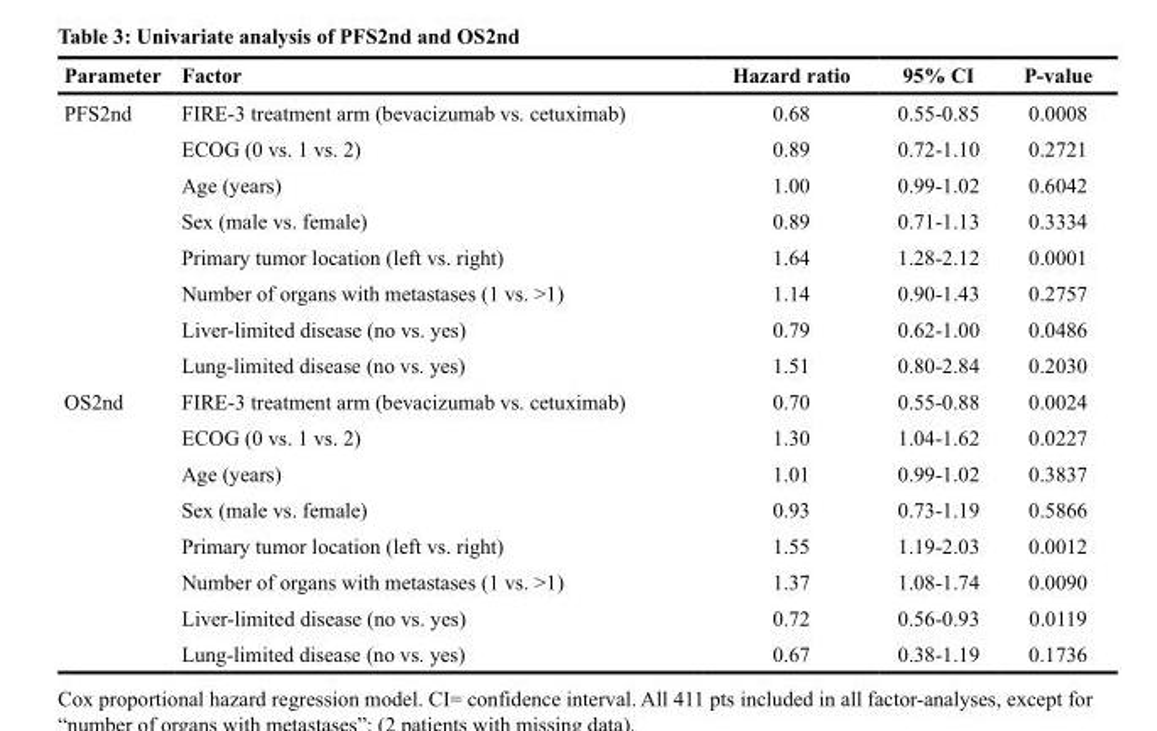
<table><thead><tr><td>Parameter</td><td>Factor</td><td>Hazard ratio</td><td>95% CI</td><td>P-value</td></tr></thead><tbody><tr><td rowspan="8">PFS2nd</td><td>FIRE-3 treatment arm (bevacizumab vs. cetuximab)</td><td>0.68</td><td>0.55-0.85</td><td>0.0008</td></tr><tr><td>ECOG (0 vs. 1 vs. 2)</td><td>0.89</td><td>0.72-1.10</td><td>0.2721</td></tr><tr><td>Age (years)</td><td>1.00</td><td>0.99-1.02</td><td>0.6042</td></tr><tr><td>Sex (male vs. female)</td><td>0.89</td><td>0.71-1.13</td><td>0.3334</td></tr><tr><td>Primary tumor location (left vs. right)</td><td>1.64</td><td>1.28-2.12</td><td>0.0001</td></tr><tr><td>Number of organs with metastases (1 vs. &gt;1)</td><td>1.14</td><td>0.90-1.43</td><td>0.2757</td></tr><tr><td>Liver-limited disease (no vs. yes)</td><td>0.79</td><td>0.62-1.00</td><td>0.0486</td></tr><tr><td>Lung-limited disease (no vs. yes)</td><td>1.51</td><td>0.80-2.84</td><td>0.2030</td></tr><tr><td rowspan="8">OS2nd</td><td>FIRE-3 treatment arm (bevacizumab vs. cetuximab)</td><td>0.70</td><td>0.55-0.88</td><td>0.0024</td></tr><tr><td>ECOG (0 vs. 1 vs. 2)</td><td>1.30</td><td>1.04-1.62</td><td>0.0227</td></tr><tr><td>Age (years)</td><td>1.01</td><td>0.99-1.02</td><td>0.3837</td></tr><tr><td>Sex (male vs. female)</td><td>0.93</td><td>0.73-1.19</td><td>0.5866</td></tr><tr><td>Primary tumor location (left vs. right)</td><td>1.55</td><td>1.19-2.03</td><td>0.0012</td></tr><tr><td>Number of organs with metastases (1 vs. &gt;1)</td><td>1.37</td><td>1.08-1.74</td><td>0.0090</td></tr><tr><td>Liver-limited disease (no vs. yes)</td><td>0.72</td><td>0.56-0.93</td><td>0.0119</td></tr><tr><td>Lung-limited disease (no vs. yes)</td><td>0.67</td><td>0.38-1.19</td><td>0.1736</td></tr></tbody></table>